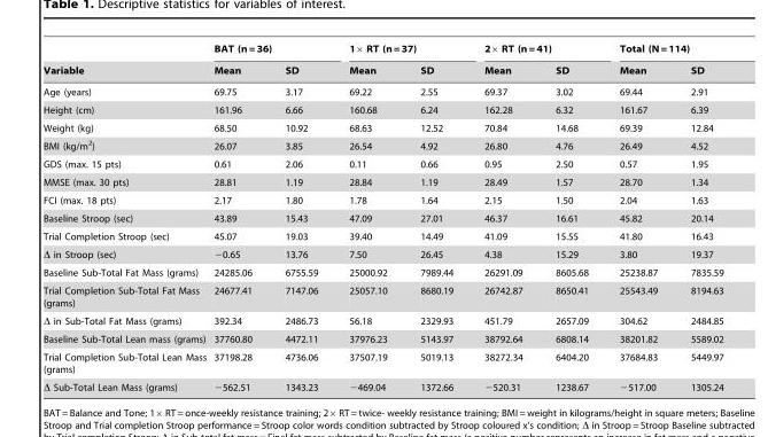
<table><thead><tr><td rowspan="2">Variable</td><td colspan="2">BAT (n = 36)</td><td colspan="2">1× RT (n = 37)</td><td colspan="2">2× RT (n = 41)</td><td colspan="2">Total (N = 114)</td></tr><tr><td>Mean</td><td>SD</td><td>Mean</td><td>SD</td><td>Mean</td><td>SD</td><td>Mean</td><td>SD</td></tr></thead><tbody><tr><td>Age (years)</td><td>69.75</td><td>3.17</td><td>69.22</td><td>2.55</td><td>69.37</td><td>3.02</td><td>69.44</td><td>2.91</td></tr><tr><td>Height (cm)</td><td>161.96</td><td>6.66</td><td>160.68</td><td>6.24</td><td>162.28</td><td>6.32</td><td>161.67</td><td>6.39</td></tr><tr><td>Weight (kg)</td><td>68.50</td><td>10.92</td><td>68.63</td><td>12.52</td><td>70.84</td><td>14.68</td><td>69.39</td><td>12.84</td></tr><tr><td>BMI (kg/m<sup>2</sup>)</td><td>26.07</td><td>3.85</td><td>26.54</td><td>4.92</td><td>26.80</td><td>4.76</td><td>26.49</td><td>4.52</td></tr><tr><td>GDS (max. 15 pts)</td><td>0.61</td><td>2.06</td><td>0.11</td><td>0.66</td><td>0.95</td><td>2.50</td><td>0.57</td><td>1.95</td></tr><tr><td>MMSE (max. 30 pts)</td><td>28.81</td><td>1.19</td><td>28.84</td><td>1.19</td><td>28.49</td><td>1.57</td><td>28.70</td><td>1.34</td></tr><tr><td>FCI (max. 18 pts)</td><td>2.17</td><td>1.80</td><td>1.78</td><td>1.64</td><td>2.15</td><td>1.50</td><td>2.04</td><td>1.63</td></tr><tr><td>Baseline Stroop (sec)</td><td>43.89</td><td>15.43</td><td>47.09</td><td>27.01</td><td>46.37</td><td>16.61</td><td>45.82</td><td>20.14</td></tr><tr><td>Trial Completion Stroop (sec)</td><td>45.07</td><td>19.03</td><td>39.40</td><td>14.49</td><td>41.09</td><td>15.55</td><td>41.80</td><td>16.43</td></tr><tr><td>Δ in Stroop (sec)</td><td>−0.65</td><td>13.76</td><td>7.50</td><td>26.45</td><td>4.38</td><td>15.29</td><td>3.80</td><td>19.37</td></tr><tr><td>Baseline Sub-Total Fat Mass (grams)</td><td>24285.06</td><td>6755.59</td><td>25000.92</td><td>7989.44</td><td>26291.09</td><td>8605.68</td><td>25238.87</td><td>7835.59</td></tr><tr><td>Trial Completion Sub-Total Fat Mass (grams)</td><td>24677.41</td><td>7147.06</td><td>25057.10</td><td>8680.19</td><td>26742.87</td><td>8650.41</td><td>25543.49</td><td>8194.63</td></tr><tr><td>Δ in Sub-Total Fat Mass (grams)</td><td>392.34</td><td>2486.73</td><td>56.18</td><td>2329.93</td><td>451.79</td><td>2657.09</td><td>304.62</td><td>2484.85</td></tr><tr><td>Baseline Sub-Total Lean mass (grams)</td><td>37760.80</td><td>4472.11</td><td>37976.23</td><td>5143.97</td><td>38792.64</td><td>6808.14</td><td>38201.82</td><td>5589.02</td></tr><tr><td>Trial Completion Sub-Total Lean Mass (grams)</td><td>37198.28</td><td>4736.06</td><td>37507.19</td><td>5019.13</td><td>38272.34</td><td>6404.20</td><td>37684.83</td><td>5449.97</td></tr><tr><td>Δ Sub-Total Lean Mass (grams)</td><td>−562.51</td><td>1343.23</td><td>−469.04</td><td>1372.66</td><td>−520.31</td><td>1238.67</td><td>−517.00</td><td>1305.24</td></tr></tbody></table>